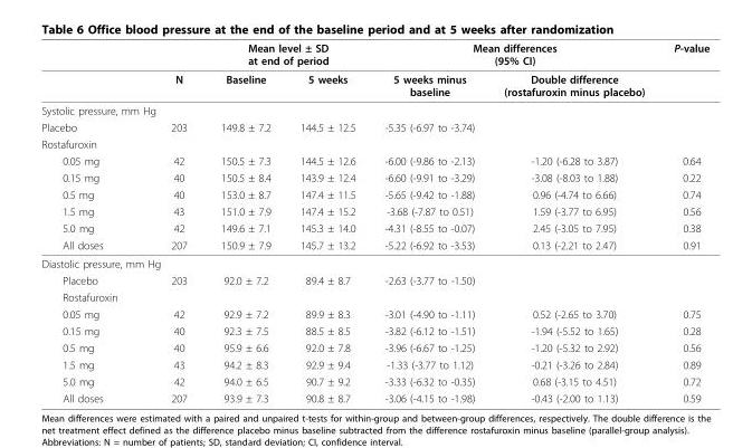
<table><thead><tr><td rowspan="2"></td><td rowspan="2">N</td><td colspan="2">Mean level ± SD at end of period</td><td colspan="2">Mean differences (95% CI)</td><td rowspan="2">P-value</td></tr><tr><td>Baseline</td><td>5 weeks</td><td>5 weeks minus baseline</td><td>Double difference (rostafuroxin minus placebo)</td></tr></thead><tbody><tr><td colspan="7">Systolic pressure, mm Hg</td></tr><tr><td>Placebo</td><td>203</td><td>149.8 ± 7.2</td><td>144.5 ± 12.5</td><td>-5.35 (-6.97 to -3.74)</td><td></td><td></td></tr><tr><td colspan="7">Rostafuroxin</td></tr><tr><td>0.05 mg</td><td>42</td><td>150.5 ± 7.3</td><td>144.5 ± 12.6</td><td>-6.00 (-9.86 to -2.13)</td><td>-1.20 (-6.28 to 3.87)</td><td>0.64</td></tr><tr><td>0.15 mg</td><td>40</td><td>150.5 ± 8.4</td><td>143.9 ± 12.4</td><td>-6.60 (-9.91 to -3.29)</td><td>-3.08 (-8.03 to 1.88)</td><td>0.22</td></tr><tr><td>0.5 mg</td><td>40</td><td>153.0 ± 8.7</td><td>147.4 ± 11.5</td><td>-5.65 (-9.42 to -1.88)</td><td>0.96 (-4.74 to 6.66)</td><td>0.74</td></tr><tr><td>1.5 mg</td><td>43</td><td>151.0 ± 7.9</td><td>147.4 ± 15.2</td><td>-3.68 (-7.87 to 0.51)</td><td>1.59 (-3.77 to 6.95)</td><td>0.56</td></tr><tr><td>5.0 mg</td><td>42</td><td>149.6 ± 7.1</td><td>145.3 ± 14.0</td><td>-4.31 (-8.55 to -0.07)</td><td>2.45 (-3.05 to 7.95)</td><td>0.38</td></tr><tr><td>All doses</td><td>207</td><td>150.9 ± 7.9</td><td>145.7 ± 13.2</td><td>-5.22 (-6.92 to -3.53)</td><td>0.13 (-2.21 to 2.47)</td><td>0.91</td></tr><tr><td colspan="7">Diastolic pressure, mm Hg</td></tr><tr><td>Placebo</td><td>203</td><td>92.0 ± 7.2</td><td>89.4 ± 8.7</td><td>-2.63 (-3.77 to -1.50)</td><td></td><td></td></tr><tr><td colspan="7">Rostafuroxin</td></tr><tr><td>0.05 mg</td><td>42</td><td>92.9 ± 7.2</td><td>89.9 ± 8.3</td><td>-3.01 (-4.90 to -1.11)</td><td>0.52 (-2.65 to 3.70)</td><td>0.75</td></tr><tr><td>0.15 mg</td><td>40</td><td>92.3 ± 7.5</td><td>88.5 ± 8.5</td><td>-3.82 (-6.12 to -1.51)</td><td>-1.94 (-5.52 to 1.65)</td><td>0.28</td></tr><tr><td>0.5 mg</td><td>40</td><td>95.9 ± 6.6</td><td>92.0 ± 7.8</td><td>-3.96 (-6.67 to -1.25)</td><td>-1.20 (-5.32 to 2.92)</td><td>0.56</td></tr><tr><td>1.5 mg</td><td>43</td><td>94.2 ± 8.3</td><td>92.9 ± 9.4</td><td>-1.33 (-3.77 to 1.12)</td><td>-0.21 (-3.26 to 2.84)</td><td>0.89</td></tr><tr><td>5.0 mg</td><td>42</td><td>94.0 ± 6.5</td><td>90.7 ± 9.2</td><td>-3.33 (-6.32 to -0.35)</td><td>0.68 (-3.15 to 4.51)</td><td>0.72</td></tr><tr><td>All doses</td><td>207</td><td>93.9 ± 7.3</td><td>90.8 ± 8.7</td><td>-3.06 (-4.15 to -1.98)</td><td>-0.43 (-2.00 to 1.13)</td><td>0.59</td></tr></tbody></table>